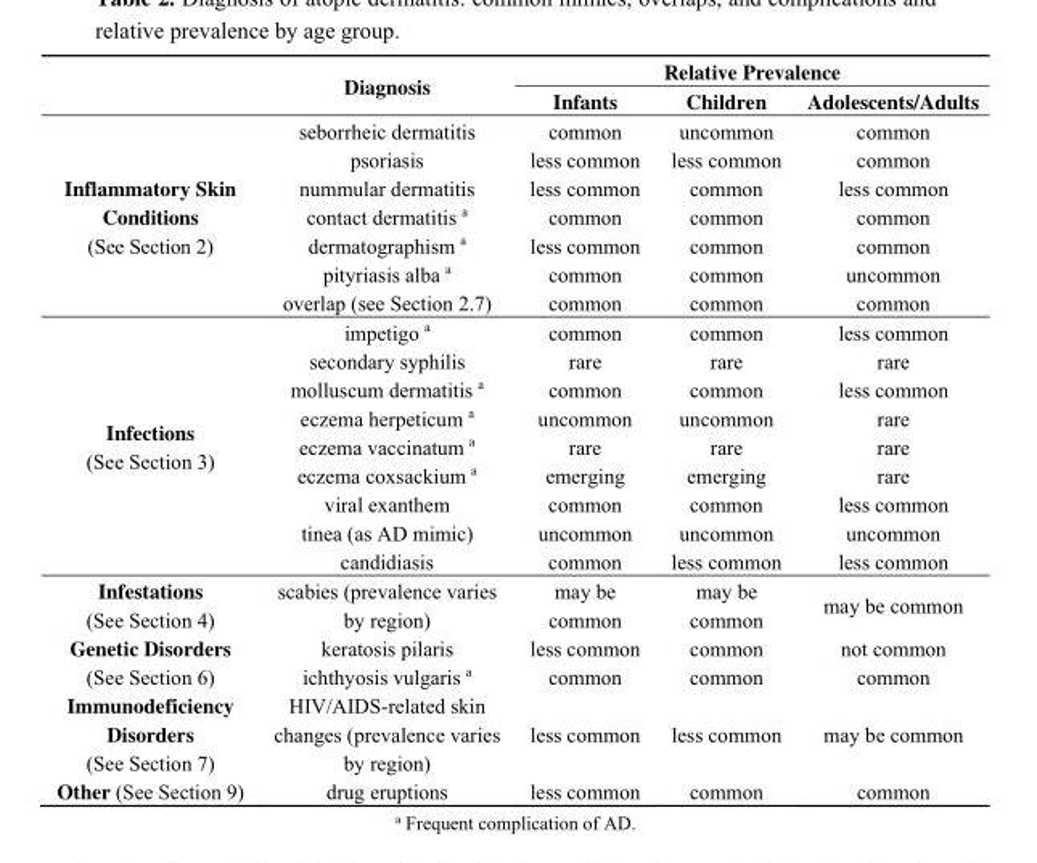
<table><thead><tr><td rowspan="2"></td><td rowspan="2">Diagnosis</td><td colspan="3">Relative Prevalence</td></tr><tr><td>Infants</td><td>Children</td><td>Adolescents/Adults</td></tr></thead><tbody><tr><td rowspan="7">Inflammatory Skin Conditions (See Section 2)</td><td>seborrheic dermatitis</td><td>common</td><td>uncommon</td><td>common</td></tr><tr><td>psoriasis</td><td>less common</td><td>less common</td><td>common</td></tr><tr><td>nummular dermatitis</td><td>less common</td><td>common</td><td>less common</td></tr><tr><td>contact dermatitis <sup>a</sup></td><td>common</td><td>common</td><td>common</td></tr><tr><td>dermatographism <sup>a</sup></td><td>less common</td><td>common</td><td>common</td></tr><tr><td>pityriasis alba <sup>a</sup></td><td>common</td><td>common</td><td>uncommon</td></tr><tr><td>overlap (see Section 2.7)</td><td>common</td><td>common</td><td>common</td></tr><tr><td rowspan="9">Infections (See Section 3)</td><td>impetigo <sup>a</sup></td><td>common</td><td>common</td><td>less common</td></tr><tr><td>secondary syphilis</td><td>rare</td><td>rare</td><td>rare</td></tr><tr><td>molluscum dermatitis <sup>a</sup></td><td>common</td><td>common</td><td>less common</td></tr><tr><td>eczema herpeticum <sup>a</sup></td><td>uncommon</td><td>uncommon</td><td>rare</td></tr><tr><td>eczema vaccinatum <sup>a</sup></td><td>rare</td><td>rare</td><td>rare</td></tr><tr><td>eczema coxsackium <sup>a</sup></td><td>emerging</td><td>emerging</td><td>rare</td></tr><tr><td>viral exanthem</td><td>common</td><td>common</td><td>less common</td></tr><tr><td>tinea (as AD mimic)</td><td>uncommon</td><td>uncommon</td><td>uncommon</td></tr><tr><td>candidiasis</td><td>common</td><td>less common</td><td>less common</td></tr><tr><td>Infestations (See Section 4)</td><td>scabies (prevalence varies by region)</td><td>may be common</td><td>may be common</td><td>may be common</td></tr><tr><td rowspan="2">Genetic Disorders (See Section 6)</td><td>keratosis pilaris</td><td>less common</td><td>common</td><td>not common</td></tr><tr><td>ichthyosis vulgaris <sup>a</sup></td><td>common</td><td>common</td><td>common</td></tr><tr><td>Immunodeficiency Disorders (See Section 7)</td><td>HIV/AIDS-related skin changes (prevalence varies by region)</td><td>less common</td><td>less common</td><td>may be common</td></tr><tr><td>Other (See Section 9)</td><td>drug eruptions</td><td>less common</td><td>common</td><td>common</td></tr></tbody></table>